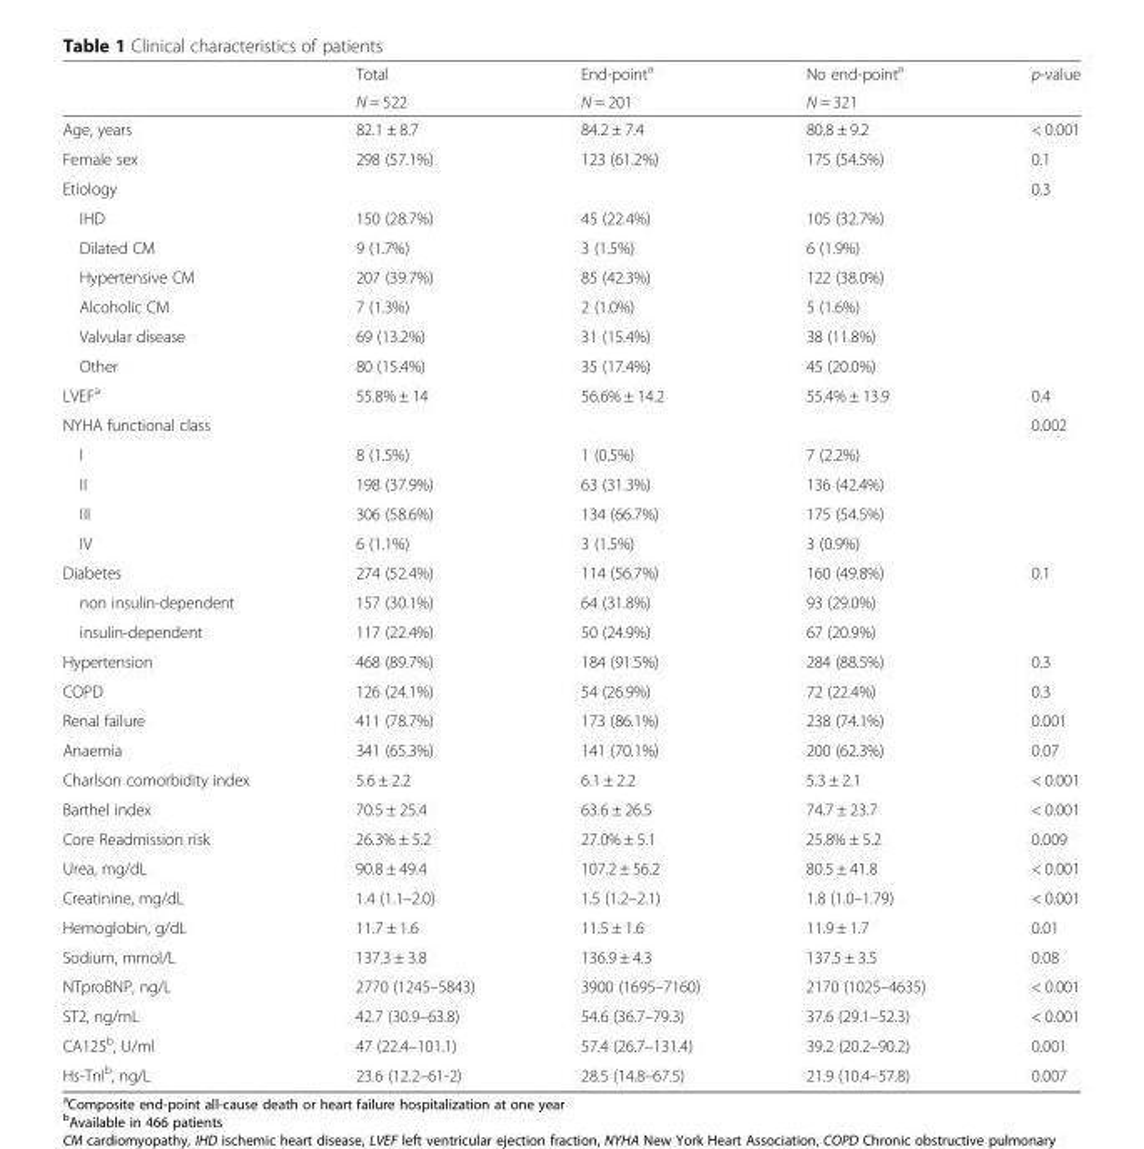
<table><thead><tr><td rowspan="2"></td><td rowspan="2">Total N = 522</td><td rowspan="2">End-point<sup>a</sup> N = 201</td><td rowspan="2">No end-point<sup>a</sup> N = 321</td><td rowspan="2">p-value</td></tr><tr></tr></thead><tbody><tr><td>Age, years</td><td>82.1 ± 8.7</td><td>84.2 ± 7.4</td><td>80.8 ± 9.2</td><td>&lt; 0.001</td></tr><tr><td>Female sex</td><td>298 (57.1%)</td><td>123 (61.2%)</td><td>175 (54.5%)</td><td>0.1</td></tr><tr><td>Etiology</td><td></td><td></td><td></td><td>0.3</td></tr><tr><td>IHD</td><td>150 (28.7%)</td><td>45 (22.4%)</td><td>105 (32.7%)</td><td></td></tr><tr><td>Dilated CM</td><td>9 (1.7%)</td><td>3 (1.5%)</td><td>6 (1.9%)</td><td></td></tr><tr><td>Hypertensive CM</td><td>207 (39.7%)</td><td>85 (42.3%)</td><td>122 (38.0%)</td><td></td></tr><tr><td>Alcoholic CM</td><td>7 (1.3%)</td><td>2 (1.0%)</td><td>5 (1.6%)</td><td></td></tr><tr><td>Valvular disease</td><td>69 (13.2%)</td><td>31 (15.4%)</td><td>38 (11.8%)</td><td></td></tr><tr><td>Other</td><td>80 (15.4%)</td><td>35 (17.4%)</td><td>45 (20.0%)</td><td></td></tr><tr><td>LVEF<sup>a</sup></td><td>55.8% ± 14</td><td>56.6% ± 14.2</td><td>55.4% ± 13.9</td><td>0.4</td></tr><tr><td>NYHA functional class</td><td></td><td></td><td></td><td>0.002</td></tr><tr><td>I</td><td>8 (1.5%)</td><td>1 (0.5%)</td><td>7 (2.2%)</td><td></td></tr><tr><td>II</td><td>198 (37.9%)</td><td>63 (31.3%)</td><td>136 (42.4%)</td><td></td></tr><tr><td>III</td><td>306 (58.6%)</td><td>134 (66.7%)</td><td>175 (54.5%)</td><td></td></tr><tr><td>IV</td><td>6 (1.1%)</td><td>3 (1.5%)</td><td>3 (0.9%)</td><td></td></tr><tr><td>Diabetes</td><td>274 (52.4%)</td><td>114 (56.7%)</td><td>160 (49.8%)</td><td>0.1</td></tr><tr><td>non insulin-dependent</td><td>157 (30.1%)</td><td>64 (31.8%)</td><td>93 (29.0%)</td><td></td></tr><tr><td>insulin-dependent</td><td>117 (22.4%)</td><td>50 (24.9%)</td><td>67 (20.9%)</td><td></td></tr><tr><td>Hypertension</td><td>468 (89.7%)</td><td>184 (91.5%)</td><td>284 (88.5%)</td><td>0.3</td></tr><tr><td>COPD</td><td>126 (24.1%)</td><td>54 (26.9%)</td><td>72 (22.4%)</td><td>0.3</td></tr><tr><td>Renal failure</td><td>411 (78.7%)</td><td>173 (86.1%)</td><td>238 (74.1%)</td><td>0.001</td></tr><tr><td>Anaemia</td><td>341 (65.3%)</td><td>141 (70.1%)</td><td>200 (62.3%)</td><td>0.07</td></tr><tr><td>Charlson comorbidity index</td><td>5.6 ± 2.2</td><td>6.1 ± 2.2</td><td>5.3 ± 2.1</td><td>&lt; 0.001</td></tr><tr><td>Barthel index</td><td>70.5 ± 25.4</td><td>63.6 ± 26.5</td><td>74.7 ± 23.7</td><td>&lt; 0.001</td></tr><tr><td>Core Readmission risk</td><td>26.3% ± 5.2</td><td>27.0% ± 5.1</td><td>25.8% ± 5.2</td><td>0.009</td></tr><tr><td>Urea, mg/dL</td><td>90.8 ± 49.4</td><td>107.2 ± 56.2</td><td>80.5 ± 41.8</td><td>&lt; 0.001</td></tr><tr><td>Creatinine, mg/dL</td><td>1.4 (1.1–2.0)</td><td>1.5 (1.2–2.1)</td><td>1.8 (1.0–1.79)</td><td>&lt; 0.001</td></tr><tr><td>Hemoglobin, g/dL</td><td>11.7 ± 1.6</td><td>11.5 ± 1.6</td><td>11.9 ± 1.7</td><td>0.01</td></tr><tr><td>Sodium, mmol/L</td><td>137.3 ± 3.8</td><td>136.9 ± 4.3</td><td>137.5 ± 3.5</td><td>0.08</td></tr><tr><td>NTproBNP, ng/L</td><td>2770 (1245–5843)</td><td>3900 (1695–7160)</td><td>2170 (1025–4635)</td><td>&lt; 0.001</td></tr><tr><td>ST2, ng/mL</td><td>42.7 (30.9–63.8)</td><td>54.6 (36.7–79.3)</td><td>37.6 (29.1–52.3)</td><td>&lt; 0.001</td></tr><tr><td>CA125<sup>b</sup>, U/ml</td><td>47 (22.4–101.1)</td><td>57.4 (26.7–131.4)</td><td>39.2 (20.2–90.2)</td><td>0.001</td></tr><tr><td>Hs-TnI<sup>b</sup>, ng/L</td><td>23.6 (12.2–61-2)</td><td>28.5 (14.8–67.5)</td><td>21.9 (10.4–57.8)</td><td>0.007</td></tr></tbody></table>